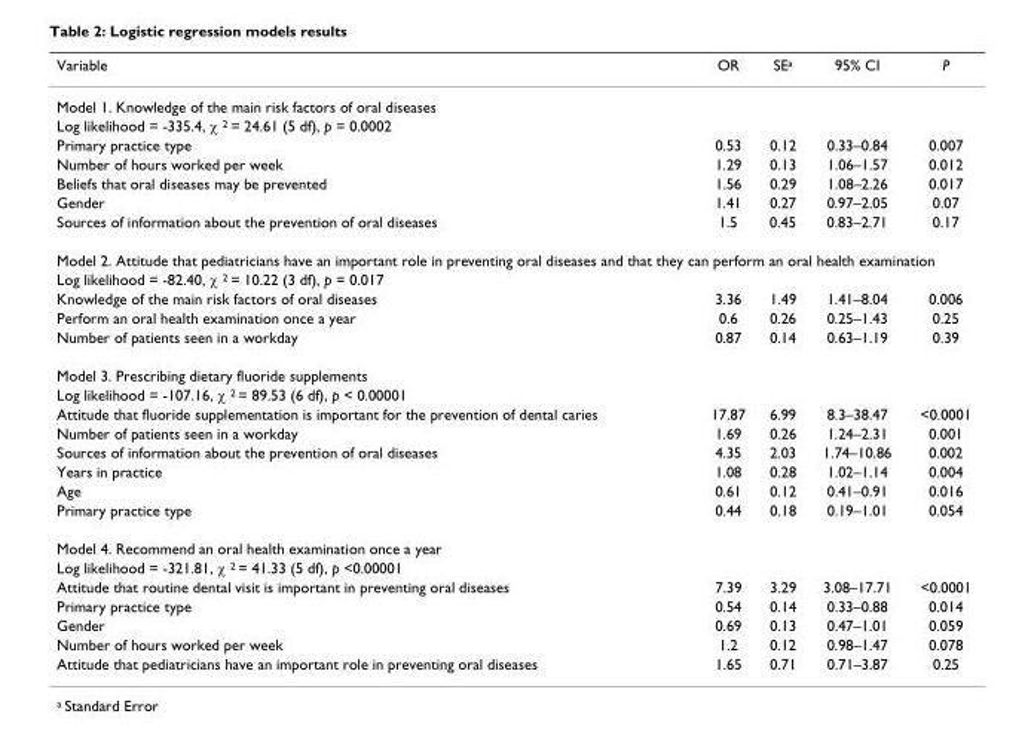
<table><thead><tr><td>Variable</td><td>OR</td><td>SEa</td><td>95% CI</td><td>P</td></tr></thead><tbody><tr><td colspan="5">Model 1. Knowledge of the main risk factors of oral diseases</td></tr><tr><td colspan="5">Log likelihood = -335.4, χ 2 = 24.61 (5 df), p = 0.0002</td></tr><tr><td>Primary practice type</td><td>0.53</td><td>0.12</td><td>0.33–0.84</td><td>0.007</td></tr><tr><td>Number of hours worked per week</td><td>1.29</td><td>0.13</td><td>1.06–1.57</td><td>0.012</td></tr><tr><td>Beliefs that oral diseases may be prevented</td><td>1.56</td><td>0.29</td><td>1.08–2.26</td><td>0.017</td></tr><tr><td>Gender</td><td>1.41</td><td>0.27</td><td>0.97–2.05</td><td>0.07</td></tr><tr><td>Sources of information about the prevention of oral diseases</td><td>1.5</td><td>0.45</td><td>0.83–2.71</td><td>0.17</td></tr><tr><td colspan="5">Model 2. Attitude that pediatricians have an important role in preventing oral diseases and that they can perform an oral health examination</td></tr><tr><td colspan="5">Log likelihood = -82.40, χ 2 = 10.22 (3 df), p = 0.017</td></tr><tr><td>Knowledge of the main risk factors of oral diseases</td><td>3.36</td><td>1.49</td><td>1.41–8.04</td><td>0.006</td></tr><tr><td>Perform an oral health examination once a year</td><td>0.6</td><td>0.26</td><td>0.25–1.43</td><td>0.25</td></tr><tr><td>Number of patients seen in a workday</td><td>0.87</td><td>0.14</td><td>0.63–1.19</td><td>0.39</td></tr><tr><td colspan="5">Model 3. Prescribing dietary fluoride supplements</td></tr><tr><td colspan="5">Log likelihood = -107.16, χ 2 = 89.53 (6 df), p &lt; 0.00001</td></tr><tr><td>Attitude that fluoride supplementation is important for the prevention of dental caries</td><td>17.87</td><td>6.99</td><td>8.3–38.47</td><td>&lt;0.0001</td></tr><tr><td>Number of patients seen in a workday</td><td>1.69</td><td>0.26</td><td>1.24–2.31</td><td>0.001</td></tr><tr><td>Sources of information about the prevention of oral diseases</td><td>4.35</td><td>2.03</td><td>1.74–10.86</td><td>0.002</td></tr><tr><td>Years in practice</td><td>1.08</td><td>0.28</td><td>1.02–1.14</td><td>0.004</td></tr><tr><td>Age</td><td>0.61</td><td>0.12</td><td>0.41–0.91</td><td>0.016</td></tr><tr><td>Primary practice type</td><td>0.44</td><td>0.18</td><td>0.19–1.01</td><td>0.054</td></tr><tr><td colspan="5">Model 4. Recommend an oral health examination once a year</td></tr><tr><td colspan="5">Log likelihood = -321.81, χ 2 = 41.33 (5 df), p &lt;0.00001</td></tr><tr><td>Attitude that routine dental visit is important in preventing oral diseases</td><td>7.39</td><td>3.29</td><td>3.08–17.71</td><td>&lt;0.0001</td></tr><tr><td>Primary practice type</td><td>0.54</td><td>0.14</td><td>0.33–0.88</td><td>0.014</td></tr><tr><td>Gender</td><td>0.69</td><td>0.13</td><td>0.47–1.01</td><td>0.059</td></tr><tr><td>Number of hours worked per week</td><td>1.2</td><td>0.12</td><td>0.98–1.47</td><td>0.078</td></tr><tr><td>Attitude that pediatricians have an important role in preventing oral diseases</td><td>1.65</td><td>0.71</td><td>0.71–3.87</td><td>0.25</td></tr></tbody></table>